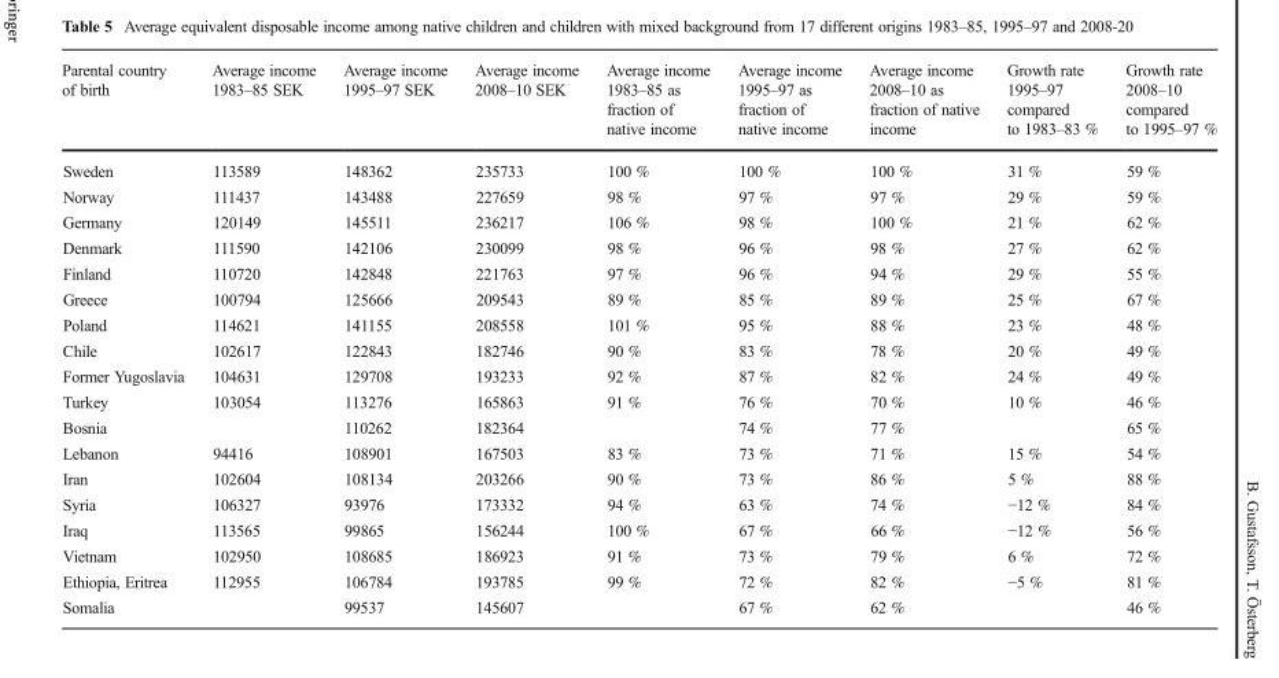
<table><thead><tr><td>Parental country of birth</td><td>Average income 1983–85 SEK</td><td>Average income 1995–97 SEK</td><td>Average income 2008–10 SEK</td><td>Average income 1983–85 as fraction of native income</td><td>Average income 1995–97 as fraction of native income</td><td>Average income 2008–10 as fraction of native income</td><td>Growth rate 1995–97 compared to 1983–83 %</td><td>Growth rate 2008–10 compared to 1995–97 %</td></tr></thead><tbody><tr><td>Sweden</td><td>113589</td><td>148362</td><td>235733</td><td>100 %</td><td>100 %</td><td>100 %</td><td>31 %</td><td>59 %</td></tr><tr><td>Norway</td><td>111437</td><td>143488</td><td>227659</td><td>98 %</td><td>97 %</td><td>97 %</td><td>29 %</td><td>59 %</td></tr><tr><td>Germany</td><td>120149</td><td>145511</td><td>236217</td><td>106 %</td><td>98 %</td><td>100 %</td><td>21 %</td><td>62 %</td></tr><tr><td>Denmark</td><td>111590</td><td>142106</td><td>230099</td><td>98 %</td><td>96 %</td><td>98 %</td><td>27 %</td><td>62 %</td></tr><tr><td>Finland</td><td>110720</td><td>142848</td><td>221763</td><td>97 %</td><td>96 %</td><td>94 %</td><td>29 %</td><td>55 %</td></tr><tr><td>Greece</td><td>100794</td><td>125666</td><td>209543</td><td>89 %</td><td>85 %</td><td>89 %</td><td>25 %</td><td>67 %</td></tr><tr><td>Poland</td><td>114621</td><td>141155</td><td>208558</td><td>101 %</td><td>95 %</td><td>88 %</td><td>23 %</td><td>48 %</td></tr><tr><td>Chile</td><td>102617</td><td>122843</td><td>182746</td><td>90 %</td><td>83 %</td><td>78 %</td><td>20 %</td><td>49 %</td></tr><tr><td>Former Yugoslavia</td><td>104631</td><td>129708</td><td>193233</td><td>92 %</td><td>87 %</td><td>82 %</td><td>24 %</td><td>49 %</td></tr><tr><td>Turkey</td><td>103054</td><td>113276</td><td>165863</td><td>91 %</td><td>76 %</td><td>70 %</td><td>10 %</td><td>46 %</td></tr><tr><td>Bosnia</td><td></td><td>110262</td><td>182364</td><td></td><td>74 %</td><td>77 %</td><td></td><td>65 %</td></tr><tr><td>Lebanon</td><td>94416</td><td>108901</td><td>167503</td><td>83 %</td><td>73 %</td><td>71 %</td><td>15 %</td><td>54 %</td></tr><tr><td>Iran</td><td>102604</td><td>108134</td><td>203266</td><td>90 %</td><td>73 %</td><td>86 %</td><td>5 %</td><td>88 %</td></tr><tr><td>Syria</td><td>106327</td><td>93976</td><td>173332</td><td>94 %</td><td>63 %</td><td>74 %</td><td>−12 %</td><td>84 %</td></tr><tr><td>Iraq</td><td>113565</td><td>99865</td><td>156244</td><td>100 %</td><td>67 %</td><td>66 %</td><td>−12 %</td><td>56 %</td></tr><tr><td>Vietnam</td><td>102950</td><td>108685</td><td>186923</td><td>91 %</td><td>73 %</td><td>79 %</td><td>6 %</td><td>72 %</td></tr><tr><td>Ethiopia, Eritrea</td><td>112955</td><td>106784</td><td>193785</td><td>99 %</td><td>72 %</td><td>82 %</td><td>−5 %</td><td>81 %</td></tr><tr><td>Somalia</td><td></td><td>99537</td><td>145607</td><td></td><td>67 %</td><td>62 %</td><td></td><td>46 %</td></tr></tbody></table>